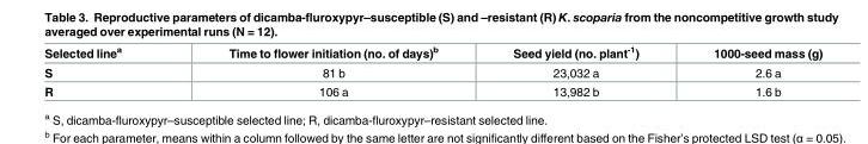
<table><thead><tr><td>Selected line<sup>a</sup></td><td>Time to flower initiation (no. of days)<sup>b</sup></td><td>Seed yield (no. plant<sup>-1</sup>)</td><td>1000-seed mass (g)</td></tr></thead><tbody><tr><td>S</td><td>81 b</td><td>23,032 a</td><td>2.6 a</td></tr><tr><td>R</td><td>106 a</td><td>13,982 b</td><td>1.6 b</td></tr></tbody></table>